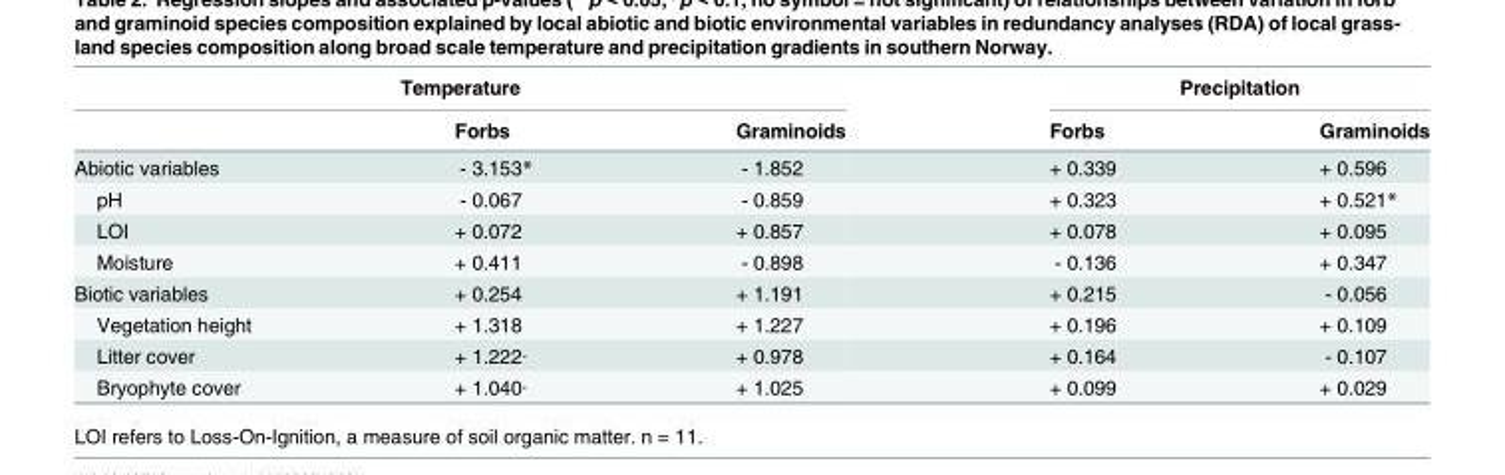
<table><thead><tr><td colspan="3">Temperature</td><td colspan="2">Precipitation</td></tr><tr><td></td><td>Forbs</td><td>Graminoids</td><td>Forbs</td><td>Graminoids</td></tr></thead><tbody><tr><td>Abiotic variables</td><td>- 3.153*</td><td>- 1.852</td><td>+ 0.339</td><td>+ 0.596</td></tr><tr><td>pH</td><td>- 0.067</td><td>- 0.859</td><td>+ 0.323</td><td>+ 0.521*</td></tr><tr><td>LOI</td><td>+ 0.072</td><td>+ 0.857</td><td>+ 0.078</td><td>+ 0.095</td></tr><tr><td>Moisture</td><td>+ 0.411</td><td>- 0.898</td><td>- 0.136</td><td>+ 0.347</td></tr><tr><td>Biotic variables</td><td>+ 0.254</td><td>+ 1.191</td><td>+ 0.215</td><td>- 0.056</td></tr><tr><td>Vegetation height</td><td>+ 1.318</td><td>+ 1.227</td><td>+ 0.196</td><td>+ 0.109</td></tr><tr><td>Litter cover</td><td>+ 1.222·</td><td>+ 0.978</td><td>+ 0.164</td><td>- 0.107</td></tr><tr><td>Bryophyte cover</td><td>+ 1.040·</td><td>+ 1.025</td><td>+ 0.099</td><td>+ 0.029</td></tr></tbody></table>